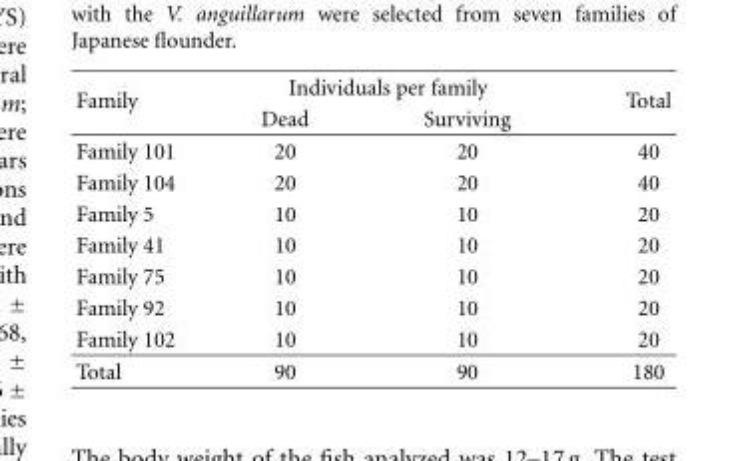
<table><thead><tr><td rowspan="2">Family</td><td colspan="2">Individuals per family</td><td rowspan="2">Total</td></tr><tr><td>Dead</td><td>Surviving</td></tr></thead><tbody><tr><td>Family 101</td><td>20</td><td>20</td><td>40</td></tr><tr><td>Family 104</td><td>20</td><td>20</td><td>40</td></tr><tr><td>Family 5</td><td>10</td><td>10</td><td>20</td></tr><tr><td>Family 41</td><td>10</td><td>10</td><td>20</td></tr><tr><td>Family 75</td><td>10</td><td>10</td><td>20</td></tr><tr><td>Family 92</td><td>10</td><td>10</td><td>20</td></tr><tr><td>Family 102</td><td>10</td><td>10</td><td>20</td></tr><tr><td>Total</td><td>90</td><td>90</td><td>180</td></tr></tbody></table>